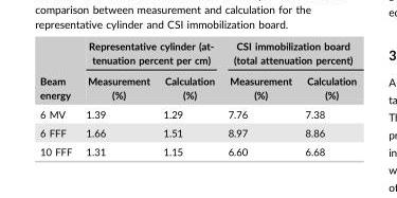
<table><thead><tr><td rowspan="2">Beam energy</td><td colspan="2">Representative cylinder (at- tenuation percent per cm)</td><td colspan="2">CSI immobilization board (total attenuation percent)</td></tr><tr><td>Measurement (%)</td><td>Calculation (%)</td><td>Measurement (%)</td><td>Calculation (%)</td></tr></thead><tbody><tr><td>6 MV</td><td>1.39</td><td>1.29</td><td>7.76</td><td>7.38</td></tr><tr><td>6 FFF</td><td>1.66</td><td>1.51</td><td>8.97</td><td>8.86</td></tr><tr><td>10 FFF</td><td>1.31</td><td>1.15</td><td>6.60</td><td>6.68</td></tr></tbody></table>